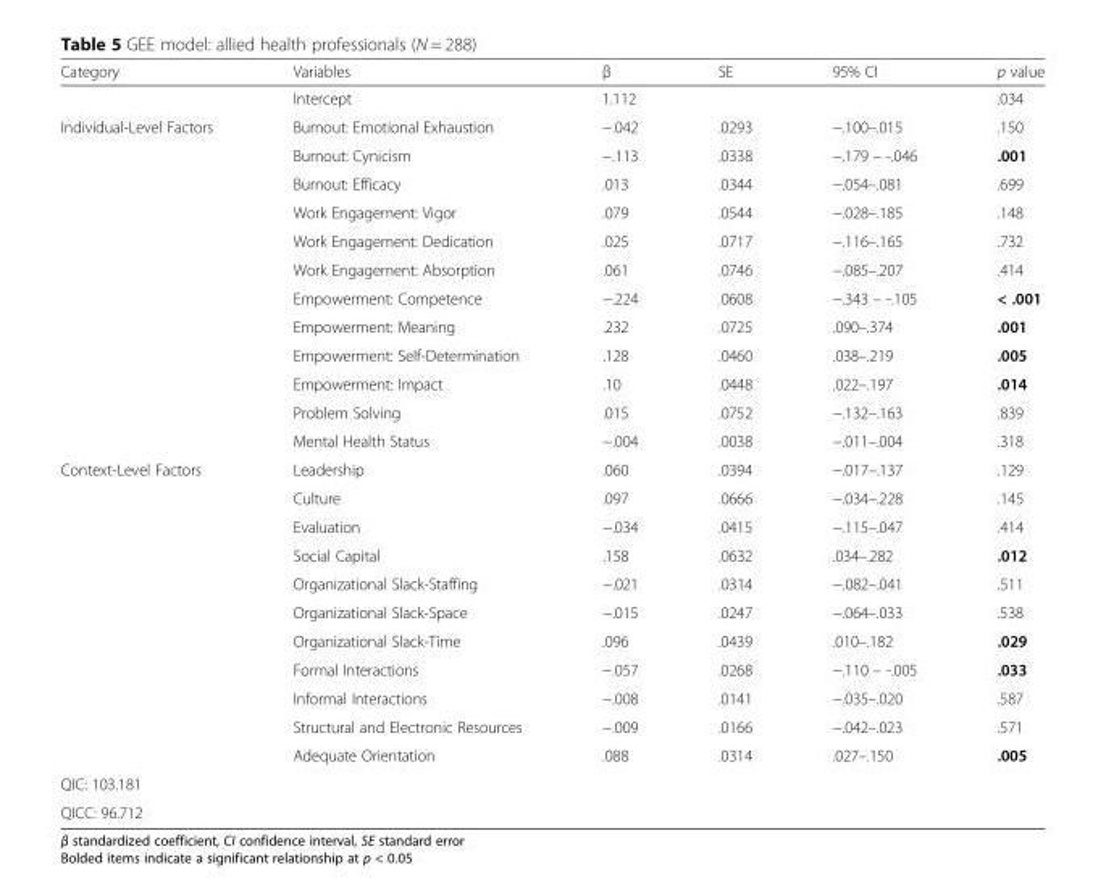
<table><thead><tr><td>Category</td><td>Variables</td><td>β</td><td>SE</td><td>95% CI</td><td>p value</td></tr></thead><tbody><tr><td></td><td>Intercept</td><td>1.112</td><td></td><td></td><td>.034</td></tr><tr><td rowspan="12">Individual-Level Factors</td><td>Burnout: Emotional Exhaustion</td><td>−.042</td><td>.0293</td><td>−.100–.015</td><td>.150</td></tr><tr><td>Burnout: Cynicism</td><td>−.113</td><td>.0338</td><td>−.179 – -.046</td><td>.001</td></tr><tr><td>Burnout: Efficacy</td><td>.013</td><td>.0344</td><td>−.054–.081</td><td>.699</td></tr><tr><td>Work Engagement: Vigor</td><td>.079</td><td>.0544</td><td>−.028–.185</td><td>.148</td></tr><tr><td>Work Engagement: Dedication</td><td>.025</td><td>.0717</td><td>−.116–.165</td><td>.732</td></tr><tr><td>Work Engagement: Absorption</td><td>.061</td><td>.0746</td><td>−.085–.207</td><td>.414</td></tr><tr><td>Empowerment: Competence</td><td>−.224</td><td>.0608</td><td>−.343 – -.105</td><td>&lt; .001</td></tr><tr><td>Empowerment: Meaning</td><td>.232</td><td>.0725</td><td>.090–.374</td><td>.001</td></tr><tr><td>Empowerment: Self-Determination</td><td>.128</td><td>.0460</td><td>.038–.219</td><td>.005</td></tr><tr><td>Empowerment: Impact</td><td>.10</td><td>.0448</td><td>.022–.197</td><td>.014</td></tr><tr><td>Problem Solving</td><td>.015</td><td>.0752</td><td>−.132–.163</td><td>.839</td></tr><tr><td>Mental Health Status</td><td>−.004</td><td>.0038</td><td>−.011–.004</td><td>.318</td></tr><tr><td rowspan="11">Context-Level Factors</td><td>Leadership</td><td>.060</td><td>.0394</td><td>−.017–.137</td><td>.129</td></tr><tr><td>Culture</td><td>.097</td><td>.0666</td><td>−.034–.228</td><td>.145</td></tr><tr><td>Evaluation</td><td>−.034</td><td>.0415</td><td>−.115–.047</td><td>.414</td></tr><tr><td>Social Capital</td><td>.158</td><td>.0632</td><td>.034–.282</td><td>.012</td></tr><tr><td>Organizational Slack-Staffing</td><td>−.021</td><td>.0314</td><td>−.082–.041</td><td>.511</td></tr><tr><td>Organizational Slack-Space</td><td>−.015</td><td>.0247</td><td>−.064–.033</td><td>.538</td></tr><tr><td>Organizational Slack-Time</td><td>.096</td><td>.0439</td><td>.010–.182</td><td>.029</td></tr><tr><td>Formal Interactions</td><td>−.057</td><td>.0268</td><td>−.110 – -.005</td><td>.033</td></tr><tr><td>Informal Interactions</td><td>−.008</td><td>.0141</td><td>−.035–.020</td><td>.587</td></tr><tr><td>Structural and Electronic Resources</td><td>−.009</td><td>.0166</td><td>−.042–.023</td><td>.571</td></tr><tr><td>Adequate Orientation</td><td>.088</td><td>.0314</td><td>.027–.150</td><td>.005</td></tr><tr><td colspan="6">QIC: 103.181</td></tr><tr><td>QICC: 96.712</td><td></td><td></td><td></td><td></td><td></td></tr></tbody></table>